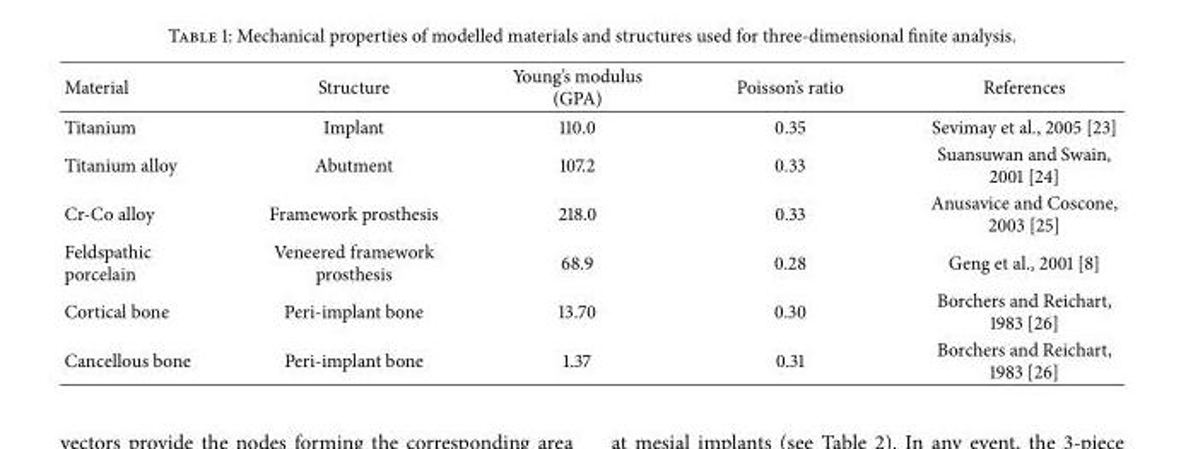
<table><thead><tr><td>Material</td><td>Structure</td><td>Young’s modulus (GPA)</td><td>Poisson’s ratio</td><td>References</td></tr></thead><tbody><tr><td>Titanium</td><td>Implant</td><td>110.0</td><td>0.35</td><td>Sevimay et al., 2005 [23]</td></tr><tr><td>Titanium alloy</td><td>Abutment</td><td>107.2</td><td>0.33</td><td>Suansuwan and Swain, 2001 [24]</td></tr><tr><td>Cr-Co alloy</td><td>Framework prosthesis</td><td>218.0</td><td>0.33</td><td>Anusavice and Coscone, 2003 [25]</td></tr><tr><td>Feldspathic porcelain</td><td>Veneered framework prosthesis</td><td>68.9</td><td>0.28</td><td>Geng et al., 2001 [8]</td></tr><tr><td>Cortical bone</td><td>Peri-implant bone</td><td>13.70</td><td>0.30</td><td>Borchers and Reichart, 1983 [26]</td></tr><tr><td>Cancellous bone</td><td>Peri-implant bone</td><td>1.37</td><td>0.31</td><td>Borchers and Reichart, 1983 [26]</td></tr></tbody></table>